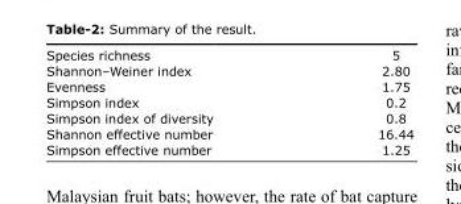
<table><tbody><tr><td>Species richness</td><td>5</td></tr><tr><td>Shannon–Weiner index</td><td>2.80</td></tr><tr><td>Evenness</td><td>1.75</td></tr><tr><td>Simpson index</td><td>0.2</td></tr><tr><td>Simpson index of diversity</td><td>0.8</td></tr><tr><td>Shannon effective number</td><td>16.44</td></tr><tr><td>Simpson effective number</td><td>1.25</td></tr></tbody></table>